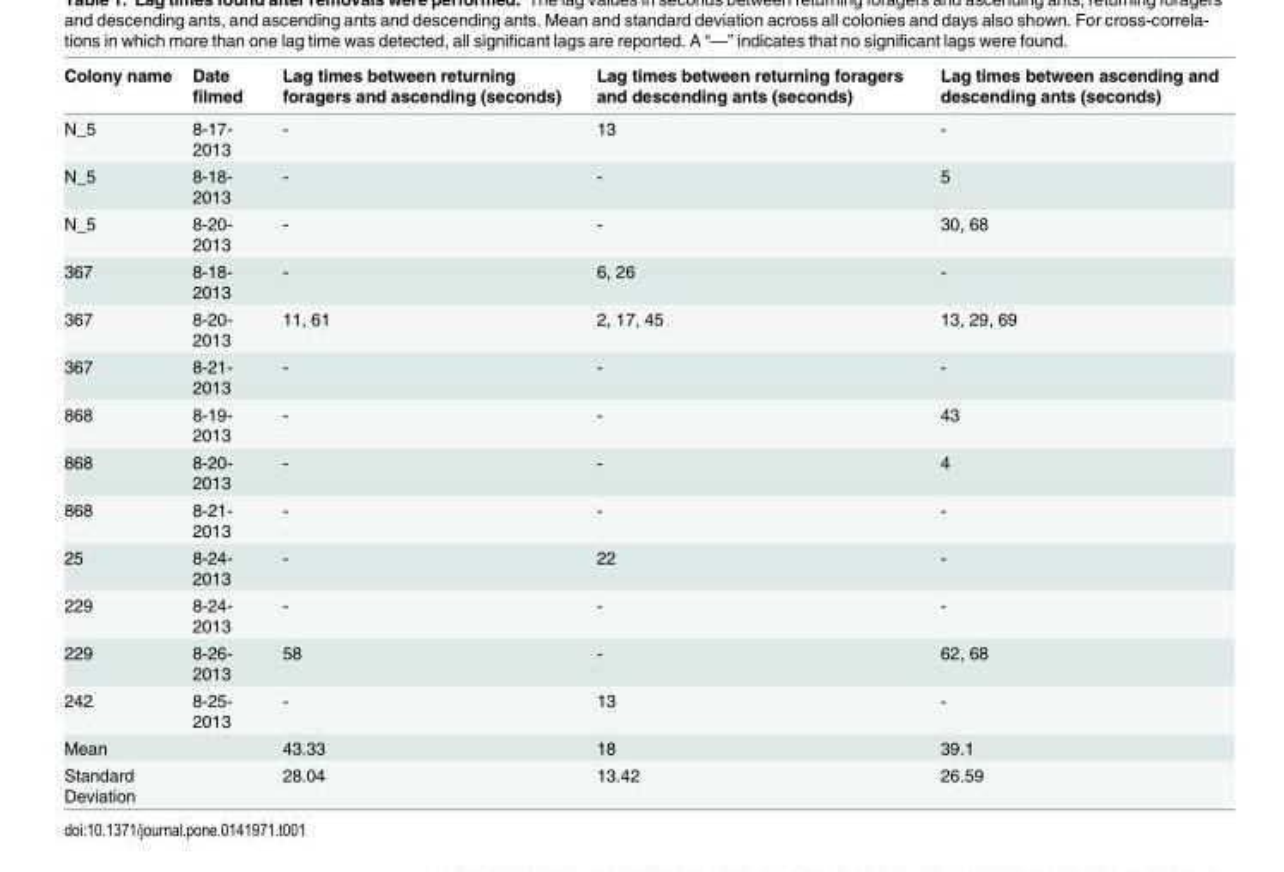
<table><thead><tr><td>Colony name</td><td>Date filmed</td><td>Lag times between returning foragers and ascending (seconds)</td><td>Lag times between returning foragers and descending ants (seconds)</td><td>Lag times between ascending and descending ants (seconds)</td></tr></thead><tbody><tr><td>N_5</td><td>8-17- 2013</td><td>-</td><td>13</td><td>-</td></tr><tr><td>N_5</td><td>8-18- 2013</td><td>-</td><td>-</td><td>5</td></tr><tr><td>N_5</td><td>8-20- 2013</td><td>-</td><td>-</td><td>30, 68</td></tr><tr><td>367</td><td>8-18- 2013</td><td>-</td><td>6, 26</td><td>-</td></tr><tr><td>367</td><td>8-20- 2013</td><td>11, 61</td><td>2, 17, 45</td><td>13, 29, 69</td></tr><tr><td>367</td><td>8-21- 2013</td><td>-</td><td>-</td><td>-</td></tr><tr><td>868</td><td>8-19- 2013</td><td>-</td><td>-</td><td>43</td></tr><tr><td>868</td><td>8-20- 2013</td><td>-</td><td>-</td><td>4</td></tr><tr><td>868</td><td>8-21- 2013</td><td>-</td><td>-</td><td>-</td></tr><tr><td>25</td><td>8-24- 2013</td><td>-</td><td>22</td><td>-</td></tr><tr><td>229</td><td>8-24- 2013</td><td>-</td><td>-</td><td>-</td></tr><tr><td>229</td><td>8-26- 2013</td><td>58</td><td>-</td><td>62, 68</td></tr><tr><td>242</td><td>8-25- 2013</td><td>-</td><td>13</td><td>-</td></tr><tr><td>Mean</td><td></td><td>43.33</td><td>18</td><td>39.1</td></tr><tr><td>Standard Deviation</td><td></td><td>28.04</td><td>13.42</td><td>26.59</td></tr></tbody></table>